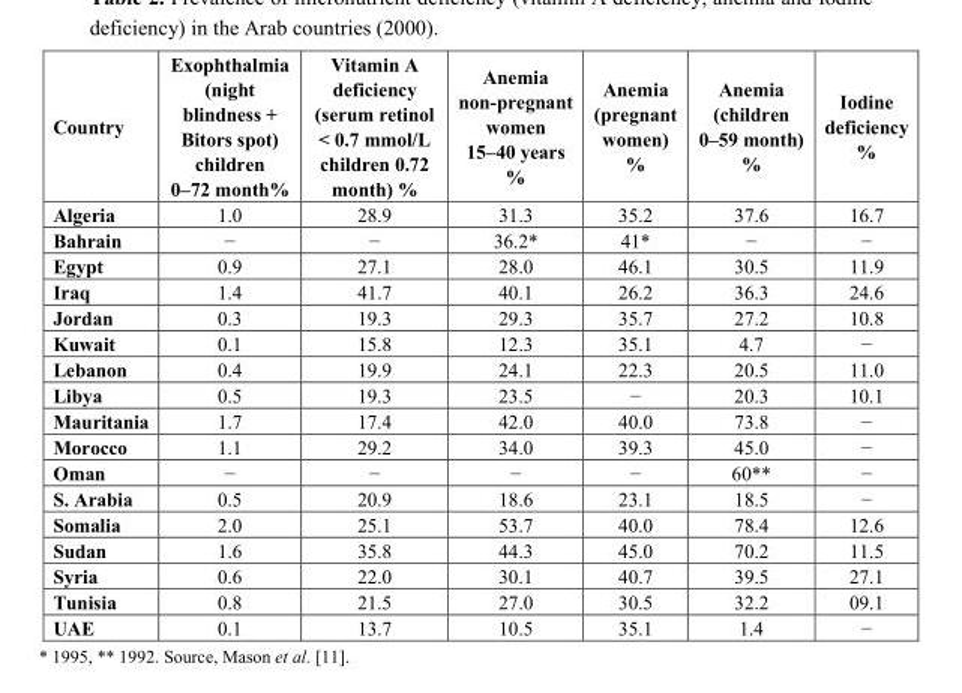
<table><thead><tr><td>Country</td><td>Exophthalmia (night blindness + Bitors spot) children 0–72 month%</td><td>Vitamin A deficiency (serum retinol &lt; 0.7 mmol/L children 0.72 month) %</td><td>Anemia non-pregnant women 15–40 years %</td><td>Anemia (pregnant women) %</td><td>Anemia (children 0–59 month) %</td><td>Iodine deficiency %</td></tr></thead><tbody><tr><td>Algeria</td><td>1.0</td><td>28.9</td><td>31.3</td><td>35.2</td><td>37.6</td><td>16.7</td></tr><tr><td>Bahrain</td><td>−</td><td>−</td><td>36.2*</td><td>41*</td><td>−</td><td>−</td></tr><tr><td>Egypt</td><td>0.9</td><td>27.1</td><td>28.0</td><td>46.1</td><td>30.5</td><td>11.9</td></tr><tr><td>Iraq</td><td>1.4</td><td>41.7</td><td>40.1</td><td>26.2</td><td>36.3</td><td>24.6</td></tr><tr><td>Jordan</td><td>0.3</td><td>19.3</td><td>29.3</td><td>35.7</td><td>27.2</td><td>10.8</td></tr><tr><td>Kuwait</td><td>0.1</td><td>15.8</td><td>12.3</td><td>35.1</td><td>4.7</td><td>−</td></tr><tr><td>Lebanon</td><td>0.4</td><td>19.9</td><td>24.1</td><td>22.3</td><td>20.5</td><td>11.0</td></tr><tr><td>Libya</td><td>0.5</td><td>19.3</td><td>23.5</td><td>−</td><td>20.3</td><td>10.1</td></tr><tr><td>Mauritania</td><td>1.7</td><td>17.4</td><td>42.0</td><td>40.0</td><td>73.8</td><td>−</td></tr><tr><td>Morocco</td><td>1.1</td><td>29.2</td><td>34.0</td><td>39.3</td><td>45.0</td><td>−</td></tr><tr><td>Oman</td><td>−</td><td>−</td><td>−</td><td>−</td><td>60**</td><td>−</td></tr><tr><td>S. Arabia</td><td>0.5</td><td>20.9</td><td>18.6</td><td>23.1</td><td>18.5</td><td>−</td></tr><tr><td>Somalia</td><td>2.0</td><td>25.1</td><td>53.7</td><td>40.0</td><td>78.4</td><td>12.6</td></tr><tr><td>Sudan</td><td>1.6</td><td>35.8</td><td>44.3</td><td>45.0</td><td>70.2</td><td>11.5</td></tr><tr><td>Syria</td><td>0.6</td><td>22.0</td><td>30.1</td><td>40.7</td><td>39.5</td><td>27.1</td></tr><tr><td>Tunisia</td><td>0.8</td><td>21.5</td><td>27.0</td><td>30.5</td><td>32.2</td><td>09.1</td></tr><tr><td>UAE</td><td>0.1</td><td>13.7</td><td>10.5</td><td>35.1</td><td>1.4</td><td>−</td></tr></tbody></table>